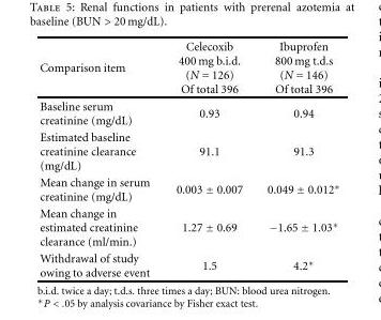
<table><thead><tr><td>Comparison item</td><td>Celecoxib 400 mg b.i.d. (N = 126) Of total 396</td><td>Ibuprofen 800 mg t.d.s (N = 146) Of total 396</td></tr></thead><tbody><tr><td>Baseline serum creatinine (mg/dL)</td><td>0.93</td><td>0.94</td></tr><tr><td>Estimated baseline creatinine clearance (mg/dL)</td><td>91.1</td><td>91.3</td></tr><tr><td>Mean change in serum creatinine (mg/dL)</td><td>0.003 ± 0.007</td><td>0.049 ± 0.012∗</td></tr><tr><td>Mean change in estimated creatinine clearance (ml/min.)</td><td>1.27 ± 0.69</td><td>−1.65 ± 1.03∗</td></tr><tr><td>Withdrawal of study owing to adverse event</td><td>1.5</td><td>4.2∗</td></tr></tbody></table>